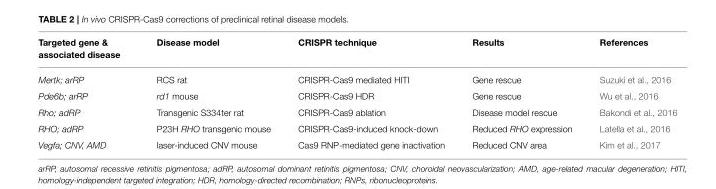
<table><thead><tr><td>Targeted gene &amp; associated disease</td><td>Disease model</td><td>CRISPR technique</td><td>Results</td><td>References</td></tr></thead><tbody><tr><td>Mertk; arRP</td><td>RCS rat</td><td>CRISPR-Cas9 mediated HITI</td><td>Gene rescue</td><td>Suzuki et al., 2016</td></tr><tr><td>Pde6b; arRP</td><td>rd1 mouse</td><td>CRISPR-Cas9 HDR</td><td>Gene rescue</td><td>Wu et al., 2016</td></tr><tr><td>Rho; adRP</td><td>Transgenic S334ter rat</td><td>CRISPR-Cas9 ablation</td><td>Disease model rescue</td><td>Bakondi et al., 2016</td></tr><tr><td>RHO; adRP</td><td>P23H RHO transgenic mouse</td><td>CRISPR-Cas9-induced knock-down</td><td>Reduced RHO expression</td><td>Latella et al., 2016</td></tr><tr><td>Vegfa; CNV, AMD</td><td>laser-induced CNV mouse</td><td>Cas9 RNP-mediated gene inactivation</td><td>Reduced CNV area</td><td>Kim et al., 2017</td></tr></tbody></table>